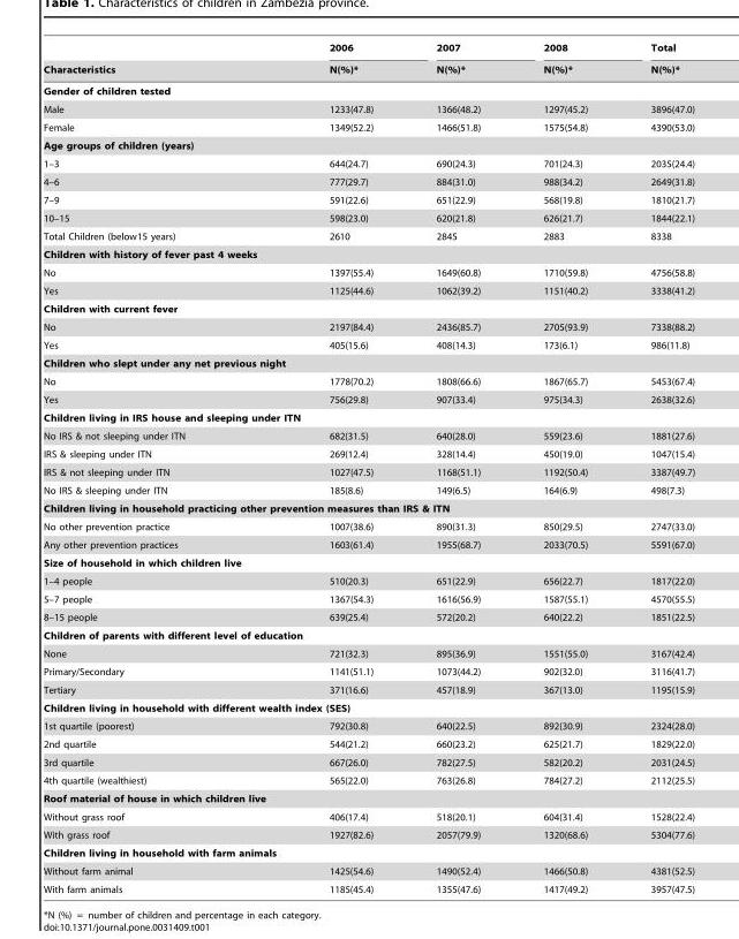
<table><thead><tr><td rowspan="2">Characteristics</td><td rowspan="2">2006 N(%)*</td><td rowspan="2">2007 N(%)*</td><td rowspan="2">2008 N(%)*</td><td rowspan="2">Total N(%)*</td></tr><tr></tr></thead><tbody><tr><td colspan="5">Gender of children tested</td></tr><tr><td>Male</td><td>1233(47.8)</td><td>1366(48.2)</td><td>1297(45.2)</td><td>3896(47.0)</td></tr><tr><td>Female</td><td>1349(52.2)</td><td>1466(51.8)</td><td>1575(54.8)</td><td>4390(53.0)</td></tr><tr><td colspan="5">Age groups of children (years)</td></tr><tr><td>1–3</td><td>644(24.7)</td><td>690(24.3)</td><td>701(24.3)</td><td>2035(24.4)</td></tr><tr><td>4–6</td><td>777(29.7)</td><td>884(31.0)</td><td>988(34.2)</td><td>2649(31.8)</td></tr><tr><td>7–9</td><td>591(22.6)</td><td>651(22.9)</td><td>568(19.8)</td><td>1810(21.7)</td></tr><tr><td>10–15</td><td>598(23.0)</td><td>620(21.8)</td><td>626(21.7)</td><td>1844(22.1)</td></tr><tr><td>Total Children (below15 years)</td><td>2610</td><td>2845</td><td>2883</td><td>8338</td></tr><tr><td colspan="5">Children with history of fever past 4 weeks</td></tr><tr><td>No</td><td>1397(55.4)</td><td>1649(60.8)</td><td>1710(59.8)</td><td>4756(58.8)</td></tr><tr><td>Yes</td><td>1125(44.6)</td><td>1062(39.2)</td><td>1151(40.2)</td><td>3338(41.2)</td></tr><tr><td colspan="5">Children with current fever</td></tr><tr><td>No</td><td>2197(84.4)</td><td>2436(85.7)</td><td>2705(93.9)</td><td>7338(88.2)</td></tr><tr><td>Yes</td><td>405(15.6)</td><td>408(14.3)</td><td>173(6.1)</td><td>986(11.8)</td></tr><tr><td colspan="5">Children who slept under any net previous night</td></tr><tr><td>No</td><td>1778(70.2)</td><td>1808(66.6)</td><td>1867(65.7)</td><td>5453(67.4)</td></tr><tr><td>Yes</td><td>756(29.8)</td><td>907(33.4)</td><td>975(34.3)</td><td>2638(32.6)</td></tr><tr><td colspan="5">Children living in IRS house and sleeping under ITN</td></tr><tr><td>No IRS &amp; not sleeping under ITN</td><td>682(31.5)</td><td>640(28.0)</td><td>559(23.6)</td><td>1881(27.6)</td></tr><tr><td>IRS &amp; sleeping under ITN</td><td>269(12.4)</td><td>328(14.4)</td><td>450(19.0)</td><td>1047(15.4)</td></tr><tr><td>IRS &amp; not sleeping under ITN</td><td>1027(47.5)</td><td>1168(51.1)</td><td>1192(50.4)</td><td>3387(49.7)</td></tr><tr><td>No IRS &amp; sleeping under ITN</td><td>185(8.6)</td><td>149(6.5)</td><td>164(6.9)</td><td>498(7.3)</td></tr><tr><td colspan="5">Children living in household practicing other prevention measures than IRS &amp; ITN</td></tr><tr><td>No other prevention practice</td><td>1007(38.6)</td><td>890(31.3)</td><td>850(29.5)</td><td>2747(33.0)</td></tr><tr><td>Any other prevention practices</td><td>1603(61.4)</td><td>1955(68.7)</td><td>2033(70.5)</td><td>5591(67.0)</td></tr><tr><td colspan="5">Size of household in which children live</td></tr><tr><td>1–4 people</td><td>510(20.3)</td><td>651(22.9)</td><td>656(22.7)</td><td>1817(22.0)</td></tr><tr><td>5–7 people</td><td>1367(54.3)</td><td>1616(56.9)</td><td>1587(55.1)</td><td>4570(55.5)</td></tr><tr><td>8–15 people</td><td>639(25.4)</td><td>572(20.2)</td><td>640(22.2)</td><td>1851(22.5)</td></tr><tr><td colspan="5">Children of parents with different level of education</td></tr><tr><td>None</td><td>721(32.3)</td><td>895(36.9)</td><td>1551(55.0)</td><td>3167(42.4)</td></tr><tr><td>Primary/Secondary</td><td>1141(51.1)</td><td>1073(44.2)</td><td>902(32.0)</td><td>3116(41.7)</td></tr><tr><td>Tertiary</td><td>371(16.6)</td><td>457(18.9)</td><td>367(13.0)</td><td>1195(15.9)</td></tr><tr><td colspan="5">Children living in household with different wealth index (SES)</td></tr><tr><td>1st quartile (poorest)</td><td>792(30.8)</td><td>640(22.5)</td><td>892(30.9)</td><td>2324(28.0)</td></tr><tr><td>2nd quartile</td><td>544(21.2)</td><td>660(23.2)</td><td>625(21.7)</td><td>1829(22.0)</td></tr><tr><td>3rd quartile</td><td>667(26.0)</td><td>782(27.5)</td><td>582(20.2)</td><td>2031(24.5)</td></tr><tr><td>4th quartile (wealthiest)</td><td>565(22.0)</td><td>763(26.8)</td><td>784(27.2)</td><td>2112(25.5)</td></tr><tr><td colspan="5">Roof material of house in which children live</td></tr><tr><td>Without grass roof</td><td>406(17.4)</td><td>518(20.1)</td><td>604(31.4)</td><td>1528(22.4)</td></tr><tr><td>With grass roof</td><td>1927(82.6)</td><td>2057(79.9)</td><td>1320(68.6)</td><td>5304(77.6)</td></tr><tr><td colspan="5">Children living in household with farm animals</td></tr><tr><td>Without farm animal</td><td>1425(54.6)</td><td>1490(52.4)</td><td>1466(50.8)</td><td>4381(52.5)</td></tr><tr><td>With farm animals</td><td>1185(45.4)</td><td>1355(47.6)</td><td>1417(49.2)</td><td>3957(47.5)</td></tr></tbody></table>